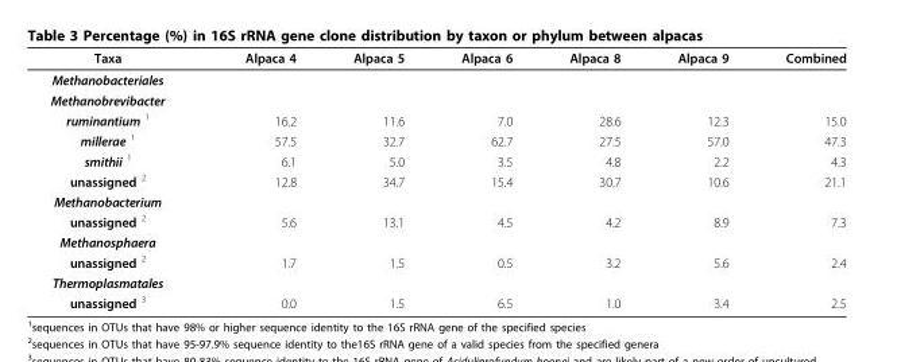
<table><thead><tr><td>Taxa</td><td>Alpaca 4</td><td>Alpaca 5</td><td>Alpaca 6</td><td>Alpaca 8</td><td>Alpaca 9</td><td>Combined</td></tr></thead><tbody><tr><td colspan="7">Methanobacteriales</td></tr><tr><td colspan="7">Methanobrevibacter</td></tr><tr><td>ruminantium <sup>1</sup></td><td>16.2</td><td>11.6</td><td>7.0</td><td>28.6</td><td>12.3</td><td>15.0</td></tr><tr><td>millerae <sup>1</sup></td><td>57.5</td><td>32.7</td><td>62.7</td><td>27.5</td><td>57.0</td><td>47.3</td></tr><tr><td>smithii <sup>1</sup></td><td>6.1</td><td>5.0</td><td>3.5</td><td>4.8</td><td>2.2</td><td>4.3</td></tr><tr><td>unassigned <sup>2</sup></td><td>12.8</td><td>34.7</td><td>15.4</td><td>30.7</td><td>10.6</td><td>21.1</td></tr><tr><td colspan="7">Methanobacterium</td></tr><tr><td>unassigned <sup>2</sup></td><td>5.6</td><td>13.1</td><td>4.5</td><td>4.2</td><td>8.9</td><td>7.3</td></tr><tr><td colspan="7">Methanosphaera</td></tr><tr><td>unassigned <sup>2</sup></td><td>1.7</td><td>1.5</td><td>0.5</td><td>3.2</td><td>5.6</td><td>2.4</td></tr><tr><td colspan="7">Thermoplasmatales</td></tr><tr><td>unassigned <sup>3</sup></td><td>0.0</td><td>1.5</td><td>6.5</td><td>1.0</td><td>3.4</td><td>2.5</td></tr></tbody></table>